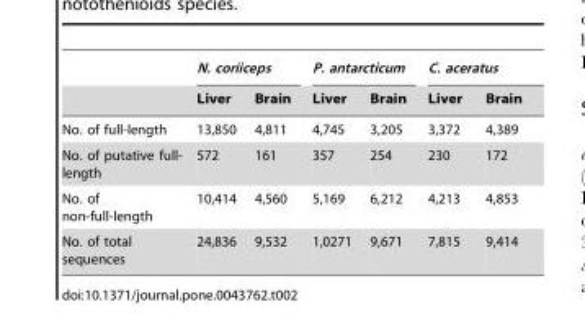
<table><thead><tr><td rowspan="2"></td><td colspan="2">N. coriiceps</td><td colspan="2">P. antarcticum</td><td colspan="2">C. aceratus</td></tr><tr><td>Liver</td><td>Brain</td><td>Liver</td><td>Brain</td><td>Liver</td><td>Brain</td></tr></thead><tbody><tr><td>No. of full-length</td><td>13,850</td><td>4,811</td><td>4,745</td><td>3,205</td><td>3,372</td><td>4,389</td></tr><tr><td>No. of putative full- length</td><td>572</td><td>161</td><td>357</td><td>254</td><td>230</td><td>172</td></tr><tr><td>No. of non-full-length</td><td>10,414</td><td>4,560</td><td>5,169</td><td>6,212</td><td>4,213</td><td>4,853</td></tr><tr><td>No. of total sequences</td><td>24,836</td><td>9,532</td><td>1,0271</td><td>9,671</td><td>7,815</td><td>9,414</td></tr></tbody></table>